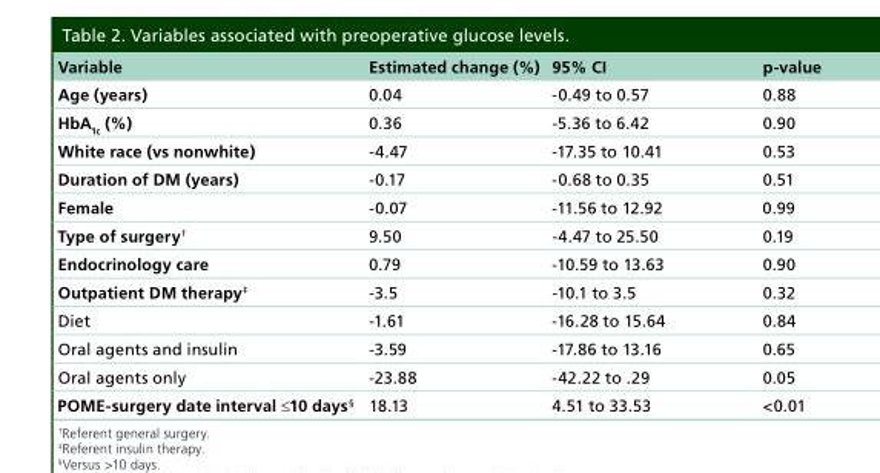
<table><thead><tr><td>Variable</td><td>Estimated change (%)</td><td>95% CI</td><td>p-value</td></tr></thead><tbody><tr><td>Age (years)</td><td>0.04</td><td>-0.49 to 0.57</td><td>0.88</td></tr><tr><td>HbA<sub>1c</sub> (%)</td><td>0.36</td><td>-5.36 to 6.42</td><td>0.90</td></tr><tr><td>White race (vs nonwhite)</td><td>-4.47</td><td>-17.35 to 10.41</td><td>0.53</td></tr><tr><td>Duration of DM (years)</td><td>-0.17</td><td>-0.68 to 0.35</td><td>0.51</td></tr><tr><td>Female</td><td>-0.07</td><td>-11.56 to 12.92</td><td>0.99</td></tr><tr><td>Type of surgery<sup>†</sup></td><td>9.50</td><td>-4.47 to 25.50</td><td>0.19</td></tr><tr><td>Endocrinology care</td><td>0.79</td><td>-10.59 to 13.63</td><td>0.90</td></tr><tr><td>Outpatient DM therapy<sup>‡</sup></td><td>-3.5</td><td>-10.1 to 3.5</td><td>0.32</td></tr><tr><td>Diet</td><td>-1.61</td><td>-16.28 to 15.64</td><td>0.84</td></tr><tr><td>Oral agents and insulin</td><td>-3.59</td><td>-17.86 to 13.16</td><td>0.65</td></tr><tr><td>Oral agents only</td><td>-23.88</td><td>-42.22 to .29</td><td>0.05</td></tr><tr><td>POME-surgery date interval ≤10 days<sup>§</sup></td><td>18.13</td><td>4.51 to 33.53</td><td>&lt;0.01</td></tr></tbody></table>